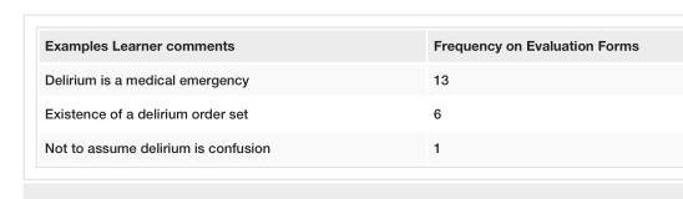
<table><tbody><tr><td>Examples Learner comments</td><td>Frequency on Evaluation Forms</td></tr><tr><td>Delirium is a medical emergency</td><td>13</td></tr><tr><td>Existence of a delirium order set</td><td>6</td></tr><tr><td>Not to assume delirium is confusion</td><td>1</td></tr></tbody></table>